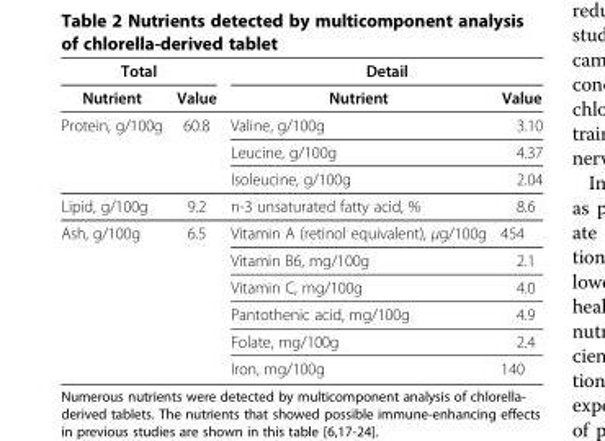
<table><thead><tr><td colspan="2">Total</td><td colspan="2">Detail</td></tr><tr><td>Nutrient</td><td>Value</td><td>Nutrient</td><td>Value</td></tr></thead><tbody><tr><td rowspan="3">Protein, g/100g</td><td>60.8</td><td>Valine, g/100g</td><td>3.10</td></tr><tr><td></td><td>Leucine, g/100g</td><td>4.37</td></tr><tr><td></td><td>Isoleucine, g/100g</td><td>2.04</td></tr><tr><td>Lipid, g/100g</td><td>9.2</td><td>n-3 unsaturated fatty acid, %</td><td>8.6</td></tr><tr><td rowspan="6">Ash, g/100g</td><td>6.5</td><td>Vitamin A (retinol equivalent), μg/100g</td><td>454</td></tr><tr><td></td><td>Vitamin B6, mg/100g</td><td>2.1</td></tr><tr><td></td><td>Vitamin C, mg/100g</td><td>4.0</td></tr><tr><td></td><td>Pantothenic acid, mg/100g</td><td>4.9</td></tr><tr><td></td><td>Folate, mg/100g</td><td>2.4</td></tr><tr><td></td><td>Iron, mg/100g</td><td>140</td></tr></tbody></table>